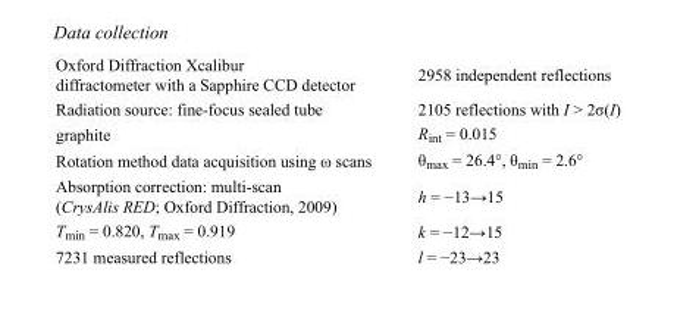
<table><tbody><tr><td>Oxford Diffraction Xcalibur diffractometer with a Sapphire CCD detector</td><td>2958 independent reflections</td></tr><tr><td>Radiation source: fine-focus sealed tube</td><td>2105 reflections with I &gt; 2σ(I)</td></tr><tr><td>graphite</td><td>R<sub>int</sub> = 0.015</td></tr><tr><td>Rotation method data acquisition using ω scans</td><td>θ<sub>max</sub> = 26.4°, θ<sub>min</sub> = 2.6°</td></tr><tr><td>Absorption correction: multi-scan (CrysAlis RED; Oxford Diffraction, 2009)</td><td>h = −13→15</td></tr><tr><td>T<sub>min</sub> = 0.820, T<sub>max</sub> = 0.919</td><td>k = −12→15</td></tr><tr><td>7231 measured reflections</td><td>l = −23→23</td></tr></tbody></table>